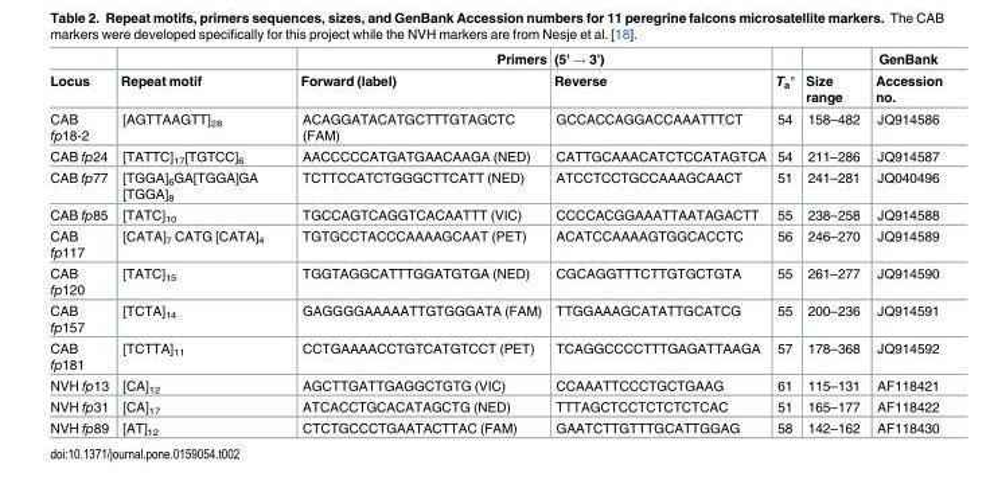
<table><thead><tr><td rowspan="2">Locus</td><td rowspan="2">Repeat motif</td><td rowspan="2">Primers Forward (label)</td><td rowspan="2">(5&#x27; → 3&#x27;) Reverse</td><td rowspan="2">T<sub>a</sub>°</td><td rowspan="2">Size range</td><td rowspan="2">GenBank Accession no.</td></tr><tr></tr></thead><tbody><tr><td>CAB fp18-2</td><td>[AGTTAAGTT]<sub>28</sub></td><td>ACAGGATACATGCTTTGTAGCTC (FAM)</td><td>GCCACCAGGACCAAATTTCT</td><td>54</td><td>158–482</td><td>JQ914586</td></tr><tr><td>CAB fp24</td><td>[TATTC]<sub>17</sub>[TGTCC]<sub>6</sub></td><td>AACCCCCATGATGAACAAGA (NED)</td><td>CATTGCAAACATCTCCATAGTCA</td><td>54</td><td>211–286</td><td>JQ914587</td></tr><tr><td>CAB fp77</td><td>[TGGA]<sub>6</sub>GA[TGGA]GA [TGGA]<sub>8</sub></td><td>TCTTCCATCTGGGCTTCATT (NED)</td><td>ATCCTCCTGCCAAAGCAACT</td><td>51</td><td>241–281</td><td>JQ040496</td></tr><tr><td>CAB fp85</td><td>[TATC]<sub>10</sub></td><td>TGCCAGTCAGGTCACAATTT (VIC)</td><td>CCCCACGGAAATTAATAGACTT</td><td>55</td><td>238–258</td><td>JQ914588</td></tr><tr><td>CAB fp117</td><td>[CATA]<sub>7</sub> CATG [CATA]<sub>4</sub></td><td>TGTGCCTACCCAAAAGCAAT (PET)</td><td>ACATCCAAAAGTGGCACCTC</td><td>56</td><td>246–270</td><td>JQ914589</td></tr><tr><td>CAB fp120</td><td>[TATC]<sub>15</sub></td><td>TGGTAGGCATTTGGATGTGA (NED)</td><td>CGCAGGTTTCTTGTGCTGTA</td><td>55</td><td>261–277</td><td>JQ914590</td></tr><tr><td>CAB fp157</td><td>[TCTA]<sub>14</sub></td><td>GAGGGGAAAAATTGTGGGATA (FAM)</td><td>TTGGAAAGCATATTGCATCG</td><td>55</td><td>200–236</td><td>JQ914591</td></tr><tr><td>CAB fp181</td><td>[TCTTA]<sub>11</sub></td><td>CCTGAAAACCTGTCATGTCCT (PET)</td><td>TCAGGCCCCTTTGAGATTAAGA</td><td>57</td><td>178–368</td><td>JQ914592</td></tr><tr><td>NVH fp13</td><td>[CA]<sub>12</sub></td><td>AGCTTGATTGAGGCTGTG (VIC)</td><td>CCAAATTCCCTGCTGAAG</td><td>61</td><td>115–131</td><td>AF118421</td></tr><tr><td>NVH fp31</td><td>[CA]<sub>17</sub></td><td>ATCACCTGCACATAGCTG (NED)</td><td>TTTAGCTCCTCTCTCTCAC</td><td>51</td><td>165–177</td><td>AF118422</td></tr><tr><td>NVH fp89</td><td>[AT]<sub>12</sub></td><td>CTCTGCCCTGAATACTTAC (FAM)</td><td>GAATCTTGTTTGCATTGGAG</td><td>58</td><td>142–162</td><td>AF118430</td></tr></tbody></table>